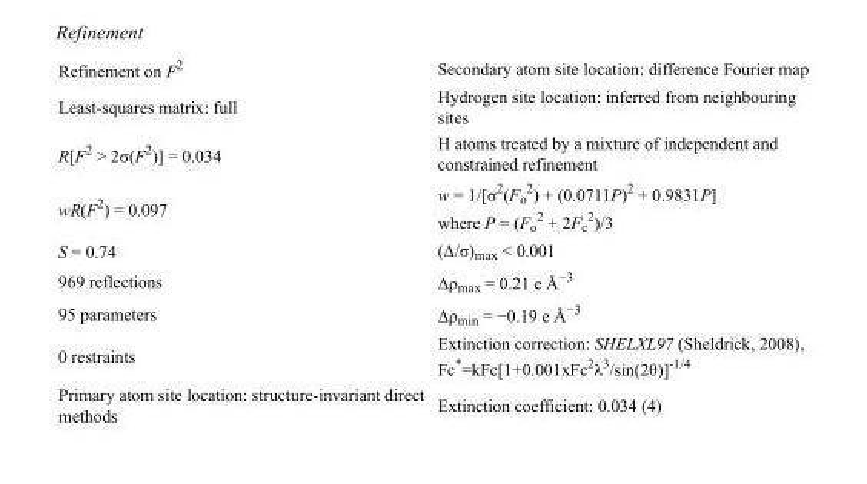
<table><tbody><tr><td>Refinement on F<sup>2</sup></td><td>Secondary atom site location: difference Fourier map</td></tr><tr><td>Least-squares matrix: full</td><td>Hydrogen site location: inferred from neighbouring sites</td></tr><tr><td>R[F<sup>2</sup> &gt; 2σ(F<sup>2</sup>)] = 0.034</td><td>H atoms treated by a mixture of independent and constrained refinement</td></tr><tr><td>wR(F<sup>2</sup>) = 0.097</td><td>w = 1/[σ<sup>2</sup>(F<sub>o</sub> <sup>2</sup>) + (0.0711P)<sup>2</sup> + 0.9831P] where P = (F<sub>o</sub> <sup>2</sup> + 2F<sub>c</sub> <sup>2</sup>)/3</td></tr><tr><td>S = 0.74</td><td>(Δ/σ)<sub>max</sub> &lt; 0.001</td></tr><tr><td>969 reflections</td><td>Δρ<sub>max</sub> = 0.21 e Å<sup>−3</sup></td></tr><tr><td>95 parameters</td><td>Δρ<sub>min</sub> = −0.19 e Å<sup>−3</sup></td></tr><tr><td>0 restraints</td><td>Extinction correction: SHELXL97 (Sheldrick, 2008), Fc*=kFc[1+0.001xFc<sup>2</sup>λ<sup>3</sup>/sin(2θ)]<sup>-1/4</sup></td></tr><tr><td>Primary atom site location: structure-invariant direct methods</td><td>Extinction coefficient: 0.034 (4)</td></tr></tbody></table>